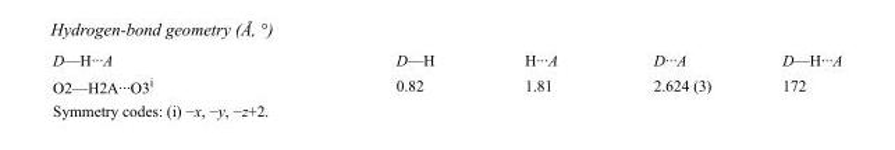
<table><tbody><tr><td>D—H···A</td><td>D—H</td><td>H···A</td><td>D···A</td><td>D—H···A</td></tr><tr><td>O2—H2A···O3<sup>i</sup></td><td>0.82</td><td>1.81</td><td>2.624 (3)</td><td>172</td></tr></tbody></table>